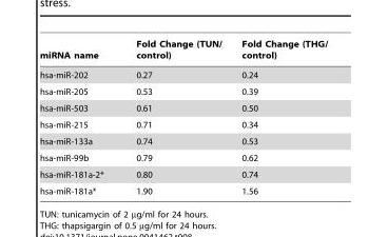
<table><thead><tr><td>miRNA name</td><td>Fold Change (TUN/ control)</td><td>Fold Change (THG/ control)</td></tr></thead><tbody><tr><td>hsa-miR-202</td><td>0.27</td><td>0.24</td></tr><tr><td>hsa-miR-205</td><td>0.53</td><td>0.39</td></tr><tr><td>hsa-miR-503</td><td>0.61</td><td>0.50</td></tr><tr><td>hsa-miR-215</td><td>0.71</td><td>0.34</td></tr><tr><td>hsa-miR-133a</td><td>0.74</td><td>0.53</td></tr><tr><td>hsa-miR-99b</td><td>0.79</td><td>0.62</td></tr><tr><td>hsa-miR-181a-2*</td><td>0.80</td><td>0.74</td></tr><tr><td>hsa-miR-181a*</td><td>1.90</td><td>1.56</td></tr></tbody></table>